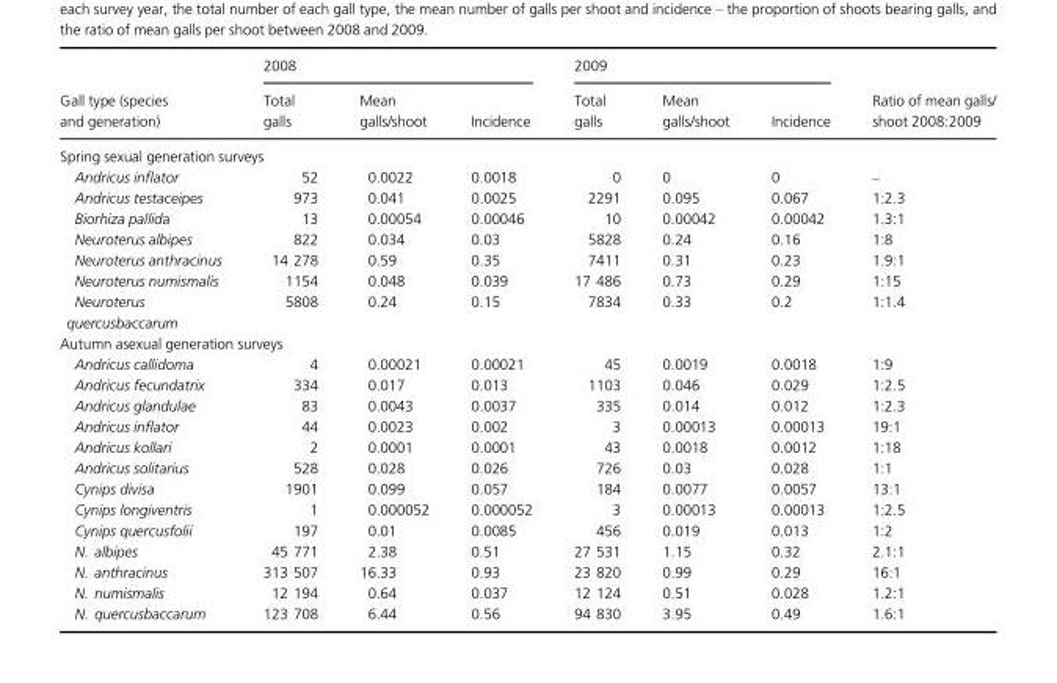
<table><thead><tr><td rowspan="2">Gall type (species and generation)</td><td colspan="3">2008</td><td colspan="3">2009</td><td rowspan="2">Ratio of mean galls/ shoot 2008:2009</td></tr><tr><td>Total galls</td><td>Mean galls/shoot</td><td>Incidence</td><td>Total galls</td><td>Mean galls/shoot</td><td>Incidence</td></tr></thead><tbody><tr><td colspan="8">Spring sexual generation surveys</td></tr><tr><td>Andricus inflator</td><td>52</td><td>0.0022</td><td>0.0018</td><td>0</td><td>0</td><td>0</td><td>–</td></tr><tr><td>Andricus testaceipes</td><td>973</td><td>0.041</td><td>0.0025</td><td>2291</td><td>0.095</td><td>0.067</td><td>1:2.3</td></tr><tr><td>Biorhiza pallida</td><td>13</td><td>0.00054</td><td>0.00046</td><td>10</td><td>0.00042</td><td>0.00042</td><td>1.3:1</td></tr><tr><td>Neuroterus albipes</td><td>822</td><td>0.034</td><td>0.03</td><td>5828</td><td>0.24</td><td>0.16</td><td>1:8</td></tr><tr><td>Neuroterus anthracinus</td><td>14 278</td><td>0.59</td><td>0.35</td><td>7411</td><td>0.31</td><td>0.23</td><td>1.9:1</td></tr><tr><td>Neuroterus numismalis</td><td>1154</td><td>0.048</td><td>0.039</td><td>17 486</td><td>0.73</td><td>0.29</td><td>1:15</td></tr><tr><td>Neuroterus quercusbaccarum</td><td>5808</td><td>0.24</td><td>0.15</td><td>7834</td><td>0.33</td><td>0.2</td><td>1:1.4</td></tr><tr><td colspan="8">Autumn asexual generation surveys</td></tr><tr><td>Andricus callidoma</td><td>4</td><td>0.00021</td><td>0.00021</td><td>45</td><td>0.0019</td><td>0.0018</td><td>1:9</td></tr><tr><td>Andricus fecundatrix</td><td>334</td><td>0.017</td><td>0.013</td><td>1103</td><td>0.046</td><td>0.029</td><td>1:2.5</td></tr><tr><td>Andricus glandulae</td><td>83</td><td>0.0043</td><td>0.0037</td><td>335</td><td>0.014</td><td>0.012</td><td>1:2.3</td></tr><tr><td>Andricus inflator</td><td>44</td><td>0.0023</td><td>0.002</td><td>3</td><td>0.00013</td><td>0.00013</td><td>19:1</td></tr><tr><td>Andricus kollari</td><td>2</td><td>0.0001</td><td>0.0001</td><td>43</td><td>0.0018</td><td>0.0012</td><td>1:18</td></tr><tr><td>Andricus solitarius</td><td>528</td><td>0.028</td><td>0.026</td><td>726</td><td>0.03</td><td>0.028</td><td>1:1</td></tr><tr><td>Cynips divisa</td><td>1901</td><td>0.099</td><td>0.057</td><td>184</td><td>0.0077</td><td>0.0057</td><td>13:1</td></tr><tr><td>Cynips longiventris</td><td>1</td><td>0.000052</td><td>0.000052</td><td>3</td><td>0.00013</td><td>0.00013</td><td>1:2.5</td></tr><tr><td>Cynips quercusfolii</td><td>197</td><td>0.01</td><td>0.0085</td><td>456</td><td>0.019</td><td>0.013</td><td>1:2</td></tr><tr><td>N. albipes</td><td>45 771</td><td>2.38</td><td>0.51</td><td>27 531</td><td>1.15</td><td>0.32</td><td>2.1:1</td></tr><tr><td>N. anthracinus</td><td>313 507</td><td>16.33</td><td>0.93</td><td>23 820</td><td>0.99</td><td>0.29</td><td>16:1</td></tr><tr><td>N. numismalis</td><td>12 194</td><td>0.64</td><td>0.037</td><td>12 124</td><td>0.51</td><td>0.028</td><td>1.2:1</td></tr><tr><td>N. quercusbaccarum</td><td>123 708</td><td>6.44</td><td>0.56</td><td>94 830</td><td>3.95</td><td>0.49</td><td>1.6:1</td></tr></tbody></table>